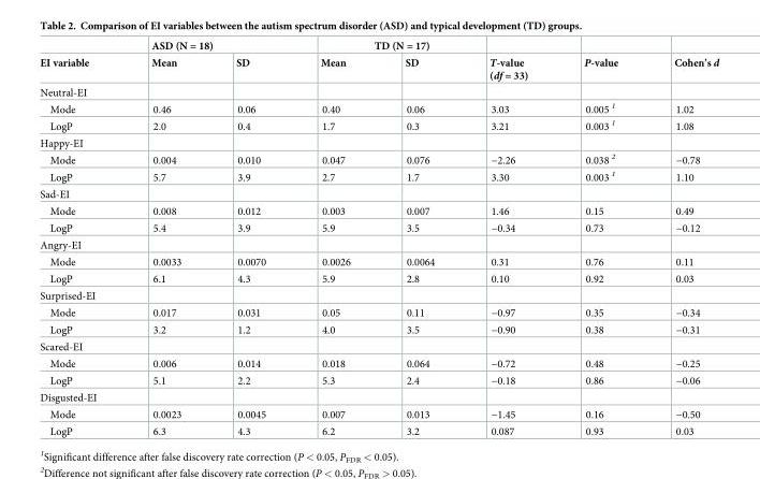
<table><thead><tr><td rowspan="2">EI variable</td><td colspan="2">ASD (N = 18)</td><td colspan="2">TD (N = 17)</td><td rowspan="2">T-value (df = 33)</td><td rowspan="2">P-value</td><td rowspan="2">Cohen’s d</td></tr><tr><td>Mean</td><td>SD</td><td>Mean</td><td>SD</td></tr></thead><tbody><tr><td colspan="8">Neutral-EI</td></tr><tr><td>Mode</td><td>0.46</td><td>0.06</td><td>0.40</td><td>0.06</td><td>3.03</td><td>0.005 <sup>1</sup></td><td>1.02</td></tr><tr><td>LogP</td><td>2.0</td><td>0.4</td><td>1.7</td><td>0.3</td><td>3.21</td><td>0.003 <sup>1</sup></td><td>1.08</td></tr><tr><td colspan="8">Happy-EI</td></tr><tr><td>Mode</td><td>0.004</td><td>0.010</td><td>0.047</td><td>0.076</td><td>−2.26</td><td>0.038 <sup>2</sup></td><td>−0.78</td></tr><tr><td>LogP</td><td>5.7</td><td>3.9</td><td>2.7</td><td>1.7</td><td>3.30</td><td>0.003 <sup>1</sup></td><td>1.10</td></tr><tr><td colspan="8">Sad-EI</td></tr><tr><td>Mode</td><td>0.008</td><td>0.012</td><td>0.003</td><td>0.007</td><td>1.46</td><td>0.15</td><td>0.49</td></tr><tr><td>LogP</td><td>5.4</td><td>3.9</td><td>5.9</td><td>3.5</td><td>−0.34</td><td>0.73</td><td>−0.12</td></tr><tr><td colspan="8">Angry-EI</td></tr><tr><td>Mode</td><td>0.0033</td><td>0.0070</td><td>0.0026</td><td>0.0064</td><td>0.31</td><td>0.76</td><td>0.11</td></tr><tr><td>LogP</td><td>6.1</td><td>4.3</td><td>5.9</td><td>2.8</td><td>0.10</td><td>0.92</td><td>0.03</td></tr><tr><td colspan="8">Surprised-EI</td></tr><tr><td>Mode</td><td>0.017</td><td>0.031</td><td>0.05</td><td>0.11</td><td>−0.97</td><td>0.35</td><td>−0.34</td></tr><tr><td>LogP</td><td>3.2</td><td>1.2</td><td>4.0</td><td>3.5</td><td>−0.90</td><td>0.38</td><td>−0.31</td></tr><tr><td colspan="8">Scared-EI</td></tr><tr><td>Mode</td><td>0.006</td><td>0.014</td><td>0.018</td><td>0.064</td><td>−0.72</td><td>0.48</td><td>−0.25</td></tr><tr><td>LogP</td><td>5.1</td><td>2.2</td><td>5.3</td><td>2.4</td><td>−0.18</td><td>0.86</td><td>−0.06</td></tr><tr><td colspan="8">Disgusted-EI</td></tr><tr><td>Mode</td><td>0.0023</td><td>0.0045</td><td>0.007</td><td>0.013</td><td>−1.45</td><td>0.16</td><td>−0.50</td></tr><tr><td>LogP</td><td>6.3</td><td>4.3</td><td>6.2</td><td>3.2</td><td>0.087</td><td>0.93</td><td>0.03</td></tr></tbody></table>